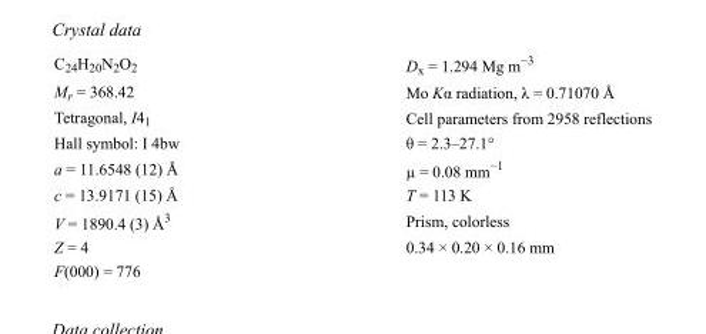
<table><tbody><tr><td>C<sub>24</sub>H<sub>20</sub>N<sub>2</sub>O<sub>2</sub></td><td>D<sub>x</sub> = 1.294 Mg m<sup>−3</sup></td></tr><tr><td>M<sub>r</sub> = 368.42</td><td>Mo Kα radiation, λ = 0.71070 Å</td></tr><tr><td>Tetragonal, I4<sub>1</sub></td><td>Cell parameters from 2958 reflections</td></tr><tr><td>Hall symbol: I 4bw</td><td>θ = 2.3–27.1°</td></tr><tr><td>a = 11.6548 (12) Å</td><td>µ = 0.08 mm<sup>−1</sup></td></tr><tr><td>c = 13.9171 (15) Å</td><td>T = 113 K</td></tr><tr><td>V = 1890.4 (3) Å<sup>3</sup></td><td>Prism, colorless</td></tr><tr><td>Z = 4</td><td>0.34 × 0.20 × 0.16 mm</td></tr><tr><td>F(000) = 776</td><td></td></tr></tbody></table>